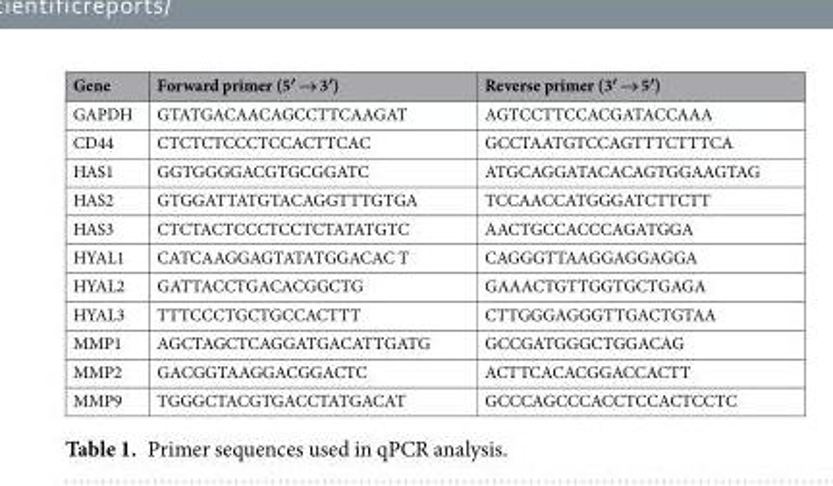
<table><thead><tr><td>Gene</td><td>Forward primer (5′ → 3′)</td><td>Reverse primer (3′ → 5′)</td></tr></thead><tbody><tr><td>GAPDH</td><td>GTATGACAACAGCCTTCAAGAT</td><td>AGTCCTTCCACGATACCAAA</td></tr><tr><td>CD44</td><td>CTCTCTCCCTCCACTTCAC</td><td>GCCTAATGTCCAGTTTCTTTCA</td></tr><tr><td>HAS1</td><td>GGTGGGGACGTGCGGATC</td><td>ATGCAGGATACACAGTGGAAGTAG</td></tr><tr><td>HAS2</td><td>GTGGATTATGTACAGGTTTGTGA</td><td>TCCAACCATGGGATCTTCTT</td></tr><tr><td>HAS3</td><td>CTCTACTCCCTCCTCTATATGTC</td><td>AACTGCCACCCAGATGGA</td></tr><tr><td>HYAL1</td><td>CATCAAGGAGTATATGGACAC T</td><td>CAGGGTTAAGGAGGAGGA</td></tr><tr><td>HYAL2</td><td>GATTACCTGACACGGCTG</td><td>GAAACTGTTGGTGCTGAGA</td></tr><tr><td>HYAL3</td><td>TTTCCCTGCTGCCACTTT</td><td>CTTGGGAGGGTTGACTGTAA</td></tr><tr><td>MMP1</td><td>AGCTAGCTCAGGATGACATTGATG</td><td>GCCGATGGGCTGGACAG</td></tr><tr><td>MMP2</td><td>GACGGTAAGGACGGACTC</td><td>ACTTCACACGGACCACTT</td></tr><tr><td>MMP9</td><td>TGGGCTACGTGACCTATGACAT</td><td>GCCCAGCCCACCTCCACTCCTC</td></tr></tbody></table>